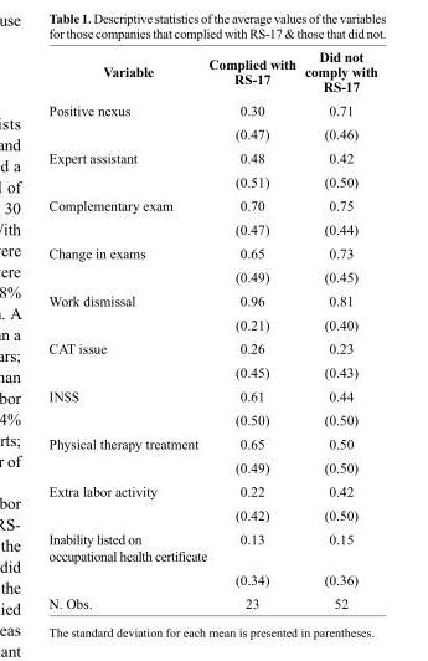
<table><thead><tr><td>Variable</td><td>Complied with RS-17</td><td>Did not comply with RS-17</td></tr></thead><tbody><tr><td rowspan="2">Positive nexus</td><td>0.30</td><td>0.71</td></tr><tr><td>(0.47)</td><td>(0.46)</td></tr><tr><td rowspan="2">Expert assistant</td><td>0.48</td><td>0.42</td></tr><tr><td>(0.51)</td><td>(0.50)</td></tr><tr><td rowspan="2">Complementary exam</td><td>0.70</td><td>0.75</td></tr><tr><td>(0.47)</td><td>(0.44)</td></tr><tr><td rowspan="2">Change in exams</td><td>0.65</td><td>0.73</td></tr><tr><td>(0.49)</td><td>(0.45)</td></tr><tr><td rowspan="2">Work dismissal</td><td>0.96</td><td>0.81</td></tr><tr><td>(0.21)</td><td>(0.40)</td></tr><tr><td rowspan="2">CAT issue</td><td>0.26</td><td>0.23</td></tr><tr><td>(0.45)</td><td>(0.43)</td></tr><tr><td rowspan="2">INSS</td><td>0.61</td><td>0.44</td></tr><tr><td>(0.50)</td><td>(0.50)</td></tr><tr><td rowspan="2">Physical therapy treatment</td><td>0.65</td><td>0.50</td></tr><tr><td>(0.49)</td><td>(0.50)</td></tr><tr><td rowspan="2">Extra labor activity</td><td>0.22</td><td>0.42</td></tr><tr><td>(0.42)</td><td>(0.50)</td></tr><tr><td rowspan="2">Inability listed on occupational health certificate</td><td>0.13</td><td>0.15</td></tr><tr><td>(0.34)</td><td>(0.36)</td></tr><tr><td>N. Obs.</td><td>23</td><td>52</td></tr></tbody></table>